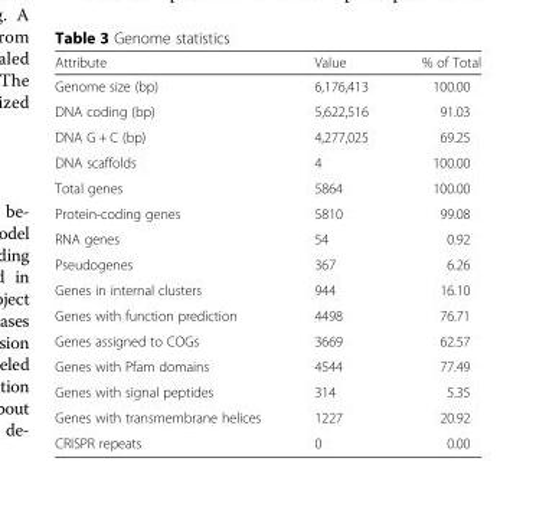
<table><thead><tr><td>Attribute</td><td>Value</td><td>% of Total</td></tr></thead><tbody><tr><td>Genome size (bp)</td><td>6,176,413</td><td>100.00</td></tr><tr><td>DNA coding (bp)</td><td>5,622,516</td><td>91.03</td></tr><tr><td>DNA G + C (bp)</td><td>4,277,025</td><td>69.25</td></tr><tr><td>DNA scaffolds</td><td>4</td><td>100.00</td></tr><tr><td>Total genes</td><td>5864</td><td>100.00</td></tr><tr><td>Protein-coding genes</td><td>5810</td><td>99.08</td></tr><tr><td>RNA genes</td><td>54</td><td>0.92</td></tr><tr><td>Pseudogenes</td><td>367</td><td>6.26</td></tr><tr><td>Genes in internal clusters</td><td>944</td><td>16.10</td></tr><tr><td>Genes with function prediction</td><td>4498</td><td>76.71</td></tr><tr><td>Genes assigned to COGs</td><td>3669</td><td>62.57</td></tr><tr><td>Genes with Pfam domains</td><td>4544</td><td>77.49</td></tr><tr><td>Genes with signal peptides</td><td>314</td><td>5.35</td></tr><tr><td>Genes with transmembrane helices</td><td>1227</td><td>20.92</td></tr><tr><td>CRISPR repeats</td><td>0</td><td>0.00</td></tr></tbody></table>